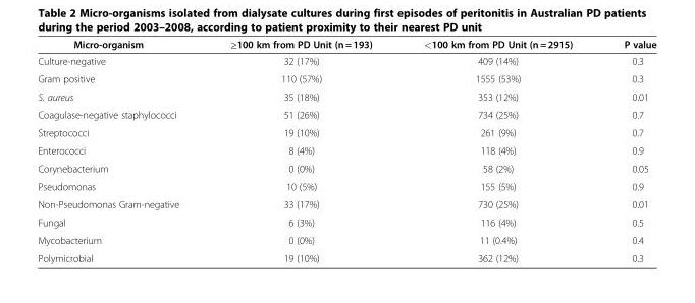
<table><thead><tr><td>Micro-organism</td><td>≥100 km from PD Unit (n = 193)</td><td>&lt;100 km from PD Unit (n = 2915)</td><td>P value</td></tr></thead><tbody><tr><td>Culture-negative</td><td>32 (17%)</td><td>409 (14%)</td><td>0.3</td></tr><tr><td>Gram positive</td><td>110 (57%)</td><td>1555 (53%)</td><td>0.3</td></tr><tr><td>S. aureus</td><td>35 (18%)</td><td>353 (12%)</td><td>0.01</td></tr><tr><td>Coagulase-negative staphylococci</td><td>51 (26%)</td><td>734 (25%)</td><td>0.7</td></tr><tr><td>Streptococci</td><td>19 (10%)</td><td>261 (9%)</td><td>0.7</td></tr><tr><td>Enterococci</td><td>8 (4%)</td><td>118 (4%)</td><td>0.9</td></tr><tr><td>Corynebacterium</td><td>0 (0%)</td><td>58 (2%)</td><td>0.05</td></tr><tr><td>Pseudomonas</td><td>10 (5%)</td><td>155 (5%)</td><td>0.9</td></tr><tr><td>Non-Pseudomonas Gram-negative</td><td>33 (17%)</td><td>730 (25%)</td><td>0.01</td></tr><tr><td>Fungal</td><td>6 (3%)</td><td>116 (4%)</td><td>0.5</td></tr><tr><td>Mycobacterium</td><td>0 (0%)</td><td>11 (0.4%)</td><td>0.4</td></tr><tr><td>Polymicrobial</td><td>19 (10%)</td><td>362 (12%)</td><td>0.3</td></tr></tbody></table>